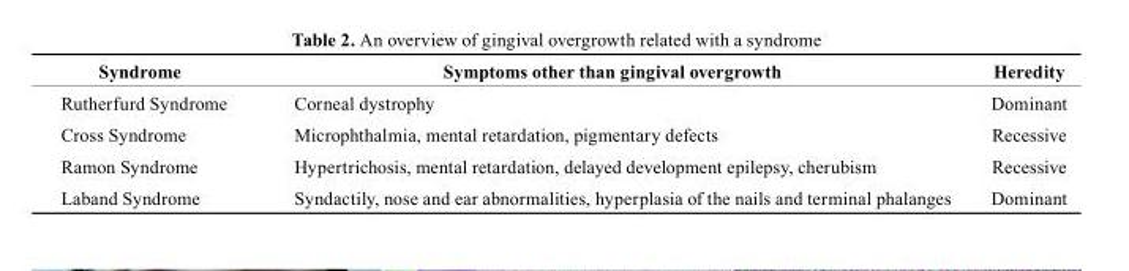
<table><thead><tr><td>syndrome</td><td>symptoms other than gingival overgrowth</td><td>Heredity</td></tr></thead><tbody><tr><td>Rutherfurd Syndrome</td><td>Corneal dystrophy</td><td>Dominant</td></tr><tr><td>Cross Syndrome</td><td>Microphthalmia, mental retardation, pigmentary defects</td><td>Recessive</td></tr><tr><td>Ramon Syndrome</td><td>Hypertrichosis, mental retardation, delayed development epilepsy, cherubism</td><td>Recessive</td></tr><tr><td>Laband Syndrome</td><td>Syndactily, nose and ear abnormalities, hyperplasia of the nails and terminal phalanges</td><td>Dominant</td></tr></tbody></table>